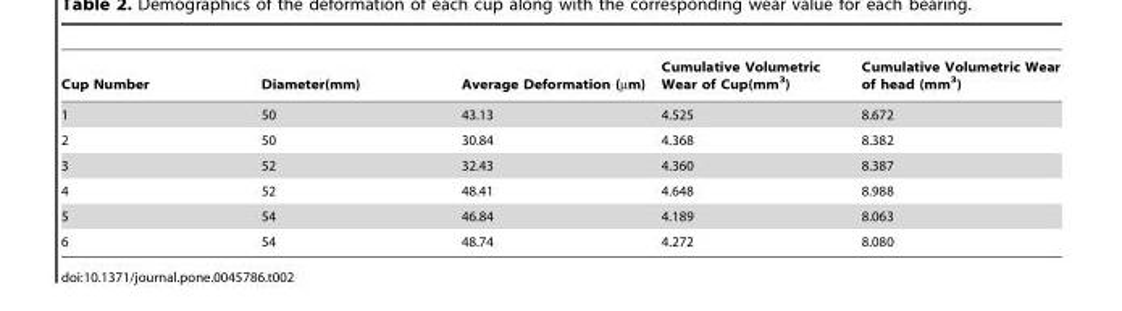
<table><thead><tr><td>Cup Number</td><td>Diameter(mm)</td><td>Average Deformation (µm)</td><td>Cumulative Volumetric Wear of Cup(mm<sup>3</sup>)</td><td>Cumulative Volumetric Wear of head (mm<sup>3</sup>)</td></tr></thead><tbody><tr><td>1</td><td>50</td><td>43.13</td><td>4.525</td><td>8.672</td></tr><tr><td>2</td><td>50</td><td>30.84</td><td>4.368</td><td>8.382</td></tr><tr><td>3</td><td>52</td><td>32.43</td><td>4.360</td><td>8.387</td></tr><tr><td>4</td><td>52</td><td>48.41</td><td>4.648</td><td>8.988</td></tr><tr><td>5</td><td>54</td><td>46.84</td><td>4.189</td><td>8.063</td></tr><tr><td>6</td><td>54</td><td>48.74</td><td>4.272</td><td>8.080</td></tr></tbody></table>